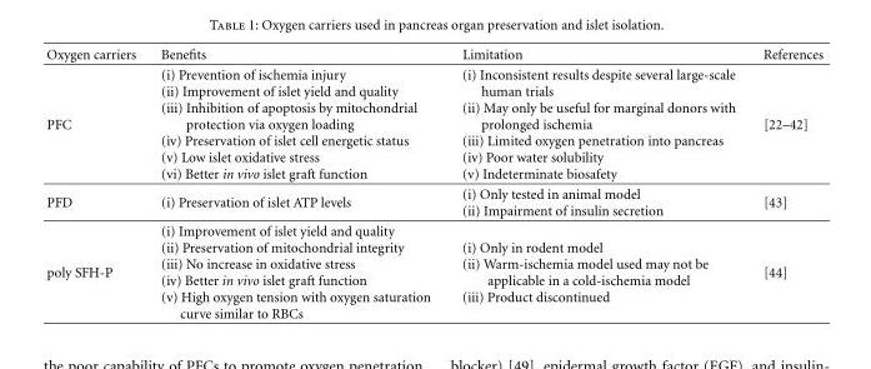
<table><thead><tr><td>Oxygen carriers</td><td>Benefits</td><td>Limitation</td><td>References</td></tr></thead><tbody><tr><td>PFC</td><td>(i) Prevention of ischemia injury (ii) Improvement of islet yield and quality (iii) Inhibition of apoptosis by mitochondrial protection via oxygen loading (iv) Preservation of islet cell energetic status (v) Low islet oxidative stress (vi) Better in vivo islet graft function</td><td>(i) Inconsistent results despite several large-scale human trials (ii) May only be useful for marginal donors with prolonged ischemia (iii) Limited oxygen penetration into pancreas (iv) Poor water solubility (v) Indeterminate biosafety</td><td>[22–42]</td></tr><tr><td>PFD</td><td>(i) Preservation of islet ATP levels</td><td>(i) Only tested in animal model (ii) Impairment of insulin secretion</td><td>[43]</td></tr><tr><td>poly SFH-P</td><td>(i) Improvement of islet yield and quality (ii) Preservation of mitochondrial integrity (iii) No increase in oxidative stress (iv) Better in vivo islet graft function (v) High oxygen tension with oxygen saturation curve similar to RBCs</td><td>(i) Only in rodent model (ii) Warm-ischemia model used may not be applicable in a cold-ischemia model (iii) Product discontinued</td><td>[44]</td></tr></tbody></table>